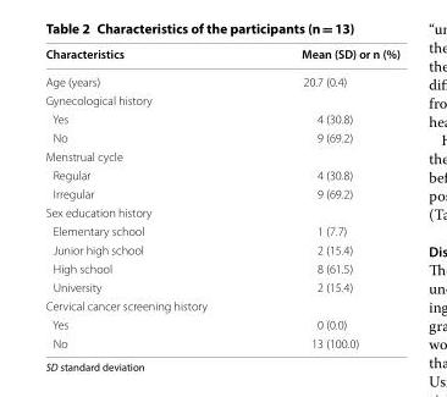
<table><thead><tr><td>Characteristics</td><td>Mean (SD) or n (%)</td></tr></thead><tbody><tr><td>Age (years)</td><td>20.7 (0.4)</td></tr><tr><td colspan="2">Gynecological history</td></tr><tr><td>Yes</td><td>4 (30.8)</td></tr><tr><td>No</td><td>9 (69.2)</td></tr><tr><td colspan="2">Menstrual cycle</td></tr><tr><td>Regular</td><td>4 (30.8)</td></tr><tr><td>Irregular</td><td>9 (69.2)</td></tr><tr><td colspan="2">Sex education history</td></tr><tr><td>Elementary school</td><td>1 (7.7)</td></tr><tr><td>Junior high school</td><td>2 (15.4)</td></tr><tr><td>High school</td><td>8 (61.5)</td></tr><tr><td>University</td><td>2 (15.4)</td></tr><tr><td colspan="2">Cervical cancer screening history</td></tr><tr><td>Yes</td><td>0 (0.0)</td></tr><tr><td>No</td><td>13 (100.0)</td></tr></tbody></table>